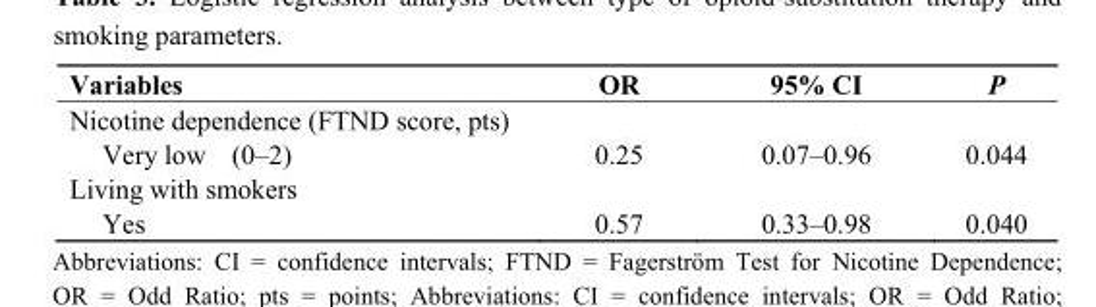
<table><thead><tr><td>Variables</td><td>OR</td><td>95% CI</td><td>P</td></tr></thead><tbody><tr><td colspan="4">Nicotine dependence (FTND score, pts)</td></tr><tr><td>Very low (0–2)</td><td>0.25</td><td>0.07–0.96</td><td>0.044</td></tr><tr><td colspan="4">Living with smokers</td></tr><tr><td>Yes</td><td>0.57</td><td>0.33–0.98</td><td>0.040</td></tr></tbody></table>